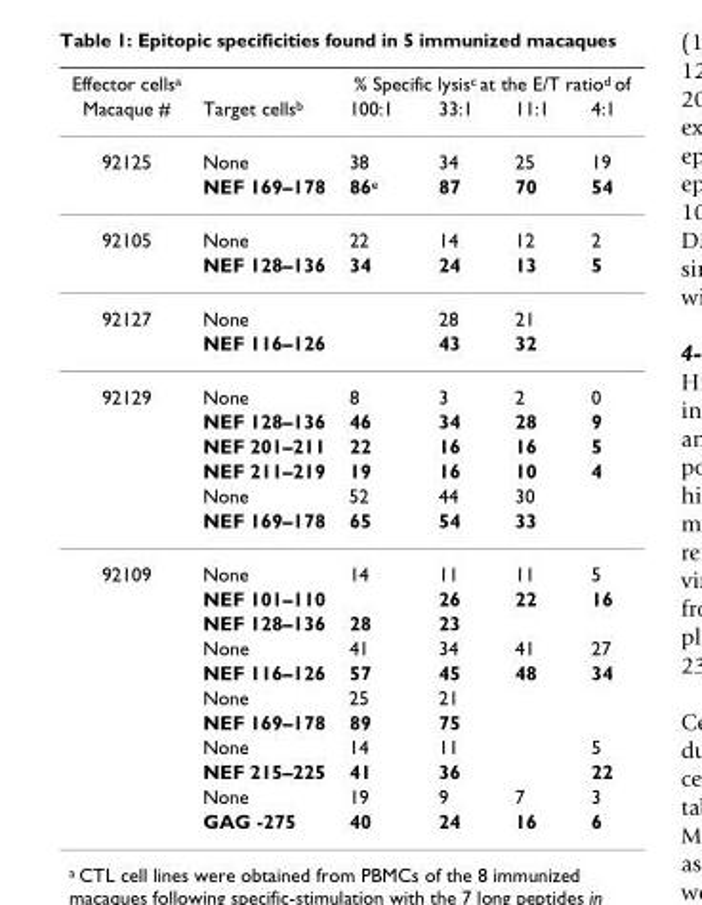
<table><thead><tr><td rowspan="2">Effector cells<sup>a</sup> Macaque #</td><td rowspan="2">Target cells<sup>b</sup></td><td colspan="4">% Specific lysis<sup>c</sup> at the E/T ratio<sup>d</sup> of</td></tr><tr><td>100:1</td><td>33:1</td><td>11:1</td><td>4:1</td></tr></thead><tbody><tr><td rowspan="2">92125</td><td>None</td><td>38</td><td>34</td><td>25</td><td>19</td></tr><tr><td>NEF 169–178</td><td>86<sup>e</sup></td><td>87</td><td>70</td><td>54</td></tr><tr><td rowspan="2">92105</td><td>None</td><td>22</td><td>14</td><td>12</td><td>2</td></tr><tr><td>NEF 128–136</td><td>34</td><td>24</td><td>13</td><td>5</td></tr><tr><td rowspan="2">92127</td><td>None</td><td></td><td>28</td><td>21</td><td></td></tr><tr><td>NEF 116–126</td><td></td><td>43</td><td>32</td><td></td></tr><tr><td rowspan="6">92129</td><td>None</td><td>8</td><td>3</td><td>2</td><td>0</td></tr><tr><td>NEF 128–136</td><td>46</td><td>34</td><td>28</td><td>9</td></tr><tr><td>NEF 201–211</td><td>22</td><td>16</td><td>16</td><td>5</td></tr><tr><td>NEF 211–219</td><td>19</td><td>16</td><td>10</td><td>4</td></tr><tr><td>None</td><td>52</td><td>44</td><td>30</td><td></td></tr><tr><td>NEF 169–178</td><td>65</td><td>54</td><td>33</td><td></td></tr><tr><td rowspan="11">92109</td><td>None</td><td>14</td><td>11</td><td>11</td><td>5</td></tr><tr><td>NEF 101–110</td><td></td><td>26</td><td>22</td><td>16</td></tr><tr><td>NEF 128–136</td><td>28</td><td>23</td><td></td><td></td></tr><tr><td>None</td><td>41</td><td>34</td><td>41</td><td>27</td></tr><tr><td>NEF 116–126</td><td>57</td><td>45</td><td>48</td><td>34</td></tr><tr><td>None</td><td>25</td><td>21</td><td></td><td></td></tr><tr><td>NEF 169–178</td><td>89</td><td>75</td><td></td><td></td></tr><tr><td>None</td><td>14</td><td>11</td><td></td><td>5</td></tr><tr><td>NEF 215–225</td><td>41</td><td>36</td><td></td><td>22</td></tr><tr><td>None</td><td>19</td><td>9</td><td>7</td><td>3</td></tr><tr><td>GAG -275</td><td>40</td><td>24</td><td>16</td><td>6</td></tr></tbody></table>